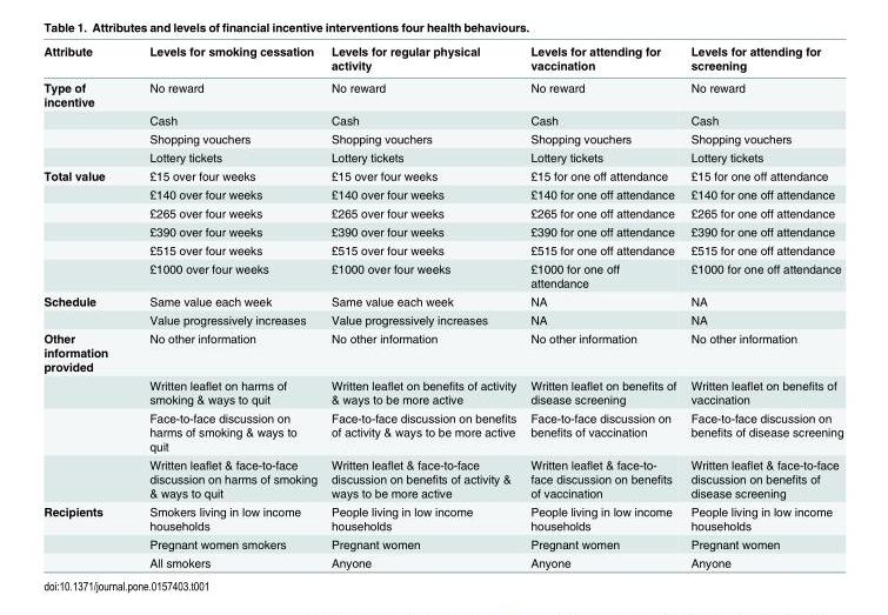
<table><thead><tr><td>Attribute</td><td>Levels for smoking cessation</td><td>Levels for regular physical activity</td><td>Levels for attending for vaccination</td><td>Levels for attending for screening</td></tr></thead><tbody><tr><td rowspan="4">Type of incentive</td><td>No reward</td><td>No reward</td><td>No reward</td><td>No reward</td></tr><tr><td>Cash</td><td>Cash</td><td>Cash</td><td>Cash</td></tr><tr><td>Shopping vouchers</td><td>Shopping vouchers</td><td>Shopping vouchers</td><td>Shopping vouchers</td></tr><tr><td>Lottery tickets</td><td>Lottery tickets</td><td>Lottery tickets</td><td>Lottery tickets</td></tr><tr><td rowspan="6">Total value</td><td>£15 over four weeks</td><td>£15 over four weeks</td><td>£15 for one off attendance</td><td>£15 for one off attendance</td></tr><tr><td>£140 over four weeks</td><td>£140 over four weeks</td><td>£140 for one off attendance</td><td>£140 for one off attendance</td></tr><tr><td>£265 over four weeks</td><td>£265 over four weeks</td><td>£265 for one off attendance</td><td>£265 for one off attendance</td></tr><tr><td>£390 over four weeks</td><td>£390 over four weeks</td><td>£390 for one off attendance</td><td>£390 for one off attendance</td></tr><tr><td>£515 over four weeks</td><td>£515 over four weeks</td><td>£515 for one off attendance</td><td>£515 for one off attendance</td></tr><tr><td>£1000 over four weeks</td><td>£1000 over four weeks</td><td>£1000 for one off attendance</td><td>£1000 for one off attendance</td></tr><tr><td rowspan="2">Schedule</td><td>Same value each week</td><td>Same value each week</td><td>NA</td><td>NA</td></tr><tr><td>Value progressively increases</td><td>Value progressively increases</td><td>NA</td><td>NA</td></tr><tr><td rowspan="4">Other information provided</td><td>No other information</td><td>No other information</td><td>No other information</td><td>No other information</td></tr><tr><td>Written leaflet on harms of smoking &amp; ways to quit</td><td>Written leaflet on benefits of activity &amp; ways to be more active</td><td>Written leaflet on benefits of disease screening</td><td>Written leaflet on benefits of vaccination</td></tr><tr><td>Face-to-face discussion on harms of smoking &amp; ways to quit</td><td>Face-to-face discussion on benefits of activity &amp; ways to be more active</td><td>Face-to-face discussion on benefits of vaccination</td><td>Face-to-face discussion on benefits of disease screening</td></tr><tr><td>Written leaflet &amp; face-to-face discussion on harms of smoking &amp; ways to quit</td><td>Written leaflet &amp; face-to-face discussion on benefits of activity &amp; ways to be more active</td><td>Written leaflet &amp; face-to- face discussion on benefits of vaccination</td><td>Written leaflet &amp; face-to-face discussion on benefits of disease screening</td></tr><tr><td rowspan="3">Recipients</td><td>Smokers living in low income households</td><td>People living in low income households</td><td>People living in low income households</td><td>People living in low income households</td></tr><tr><td>Pregnant women smokers</td><td>Pregnant women</td><td>Pregnant women</td><td>Pregnant women</td></tr><tr><td>All smokers</td><td>Anyone</td><td>Anyone</td><td>Anyone</td></tr></tbody></table>